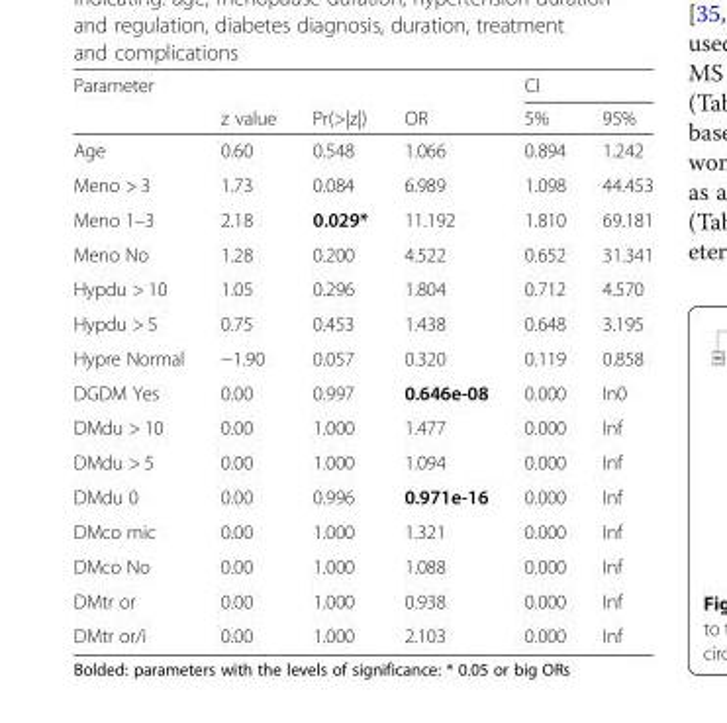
<table><thead><tr><td rowspan="2">Parameter</td><td rowspan="2">z value</td><td rowspan="2">Pr(&gt;|z|)</td><td rowspan="2">OR</td><td colspan="2">CI</td></tr><tr><td>5%</td><td>95%</td></tr></thead><tbody><tr><td>Age</td><td>0.60</td><td>0.548</td><td>1.066</td><td>0.894</td><td>1.242</td></tr><tr><td>Meno &gt; 3</td><td>1.73</td><td>0.084</td><td>6.989</td><td>1.098</td><td>44.453</td></tr><tr><td>Meno 1–3</td><td>2.18</td><td>0.029*</td><td>11.192</td><td>1.810</td><td>69.181</td></tr><tr><td>Meno No</td><td>1.28</td><td>0.200</td><td>4.522</td><td>0.652</td><td>31.341</td></tr><tr><td>Hypdu &gt; 10</td><td>1.05</td><td>0.296</td><td>1.804</td><td>0.712</td><td>4.570</td></tr><tr><td>Hypdu &gt; 5</td><td>0.75</td><td>0.453</td><td>1.438</td><td>0.648</td><td>3.195</td></tr><tr><td>Hypre Normal</td><td>−1.90</td><td>0.057</td><td>0.320</td><td>0.119</td><td>0.858</td></tr><tr><td>DGDM Yes</td><td>0.00</td><td>0.997</td><td>0.646e-08</td><td>0.000</td><td>In0</td></tr><tr><td>DMdu &gt; 10</td><td>0.00</td><td>1.000</td><td>1.477</td><td>0.000</td><td>Inf</td></tr><tr><td>DMdu &gt; 5</td><td>0.00</td><td>1.000</td><td>1.094</td><td>0.000</td><td>Inf</td></tr><tr><td>DMdu 0</td><td>0.00</td><td>0.996</td><td>0.971e-16</td><td>0.000</td><td>Inf</td></tr><tr><td>DMco mic</td><td>0.00</td><td>1.000</td><td>1.321</td><td>0.000</td><td>Inf</td></tr><tr><td>DMco No</td><td>0.00</td><td>1.000</td><td>1.088</td><td>0.000</td><td>Inf</td></tr><tr><td>DMtr or</td><td>0.00</td><td>1.000</td><td>0.938</td><td>0.000</td><td>Inf</td></tr><tr><td>DMtr or/i</td><td>0.00</td><td>1.000</td><td>2.103</td><td>0.000</td><td>Inf</td></tr></tbody></table>